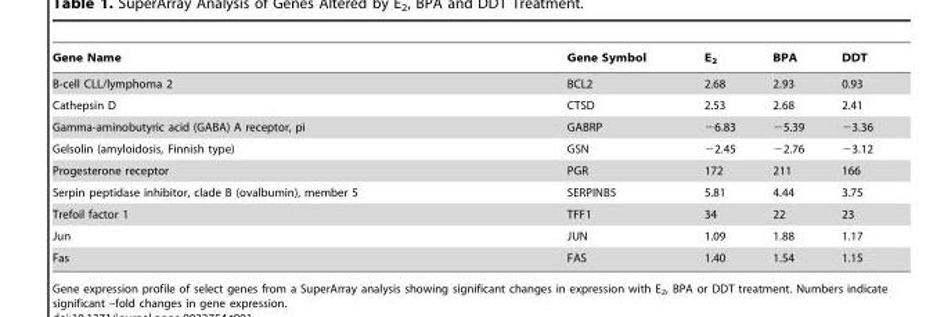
<table><thead><tr><td>Gene Name</td><td>Gene Symbol</td><td>E<sub>2</sub></td><td>BPA</td><td>DDT</td></tr></thead><tbody><tr><td>B-cell CLL/lymphoma 2</td><td>BCL2</td><td>2.68</td><td>2.93</td><td>0.93</td></tr><tr><td>Cathepsin D</td><td>CTSD</td><td>2.53</td><td>2.68</td><td>2.41</td></tr><tr><td>Gamma-aminobutyric acid (GABA) A receptor, pi</td><td>GABRP</td><td>−6.83</td><td>−5.39</td><td>−3.36</td></tr><tr><td>Gelsolin (amyloidosis, Finnish type)</td><td>GSN</td><td>−2.45</td><td>−2.76</td><td>−3.12</td></tr><tr><td>Progesterone receptor</td><td>PGR</td><td>172</td><td>211</td><td>166</td></tr><tr><td>Serpin peptidase inhibitor, clade B (ovalbumin), member 5</td><td>SERPINB5</td><td>5.81</td><td>4.44</td><td>3.75</td></tr><tr><td>Trefoil factor 1</td><td>TFF1</td><td>34</td><td>22</td><td>23</td></tr><tr><td>Jun</td><td>JUN</td><td>1.09</td><td>1.88</td><td>1.17</td></tr><tr><td>Fas</td><td>FAS</td><td>1.40</td><td>1.54</td><td>1.15</td></tr></tbody></table>